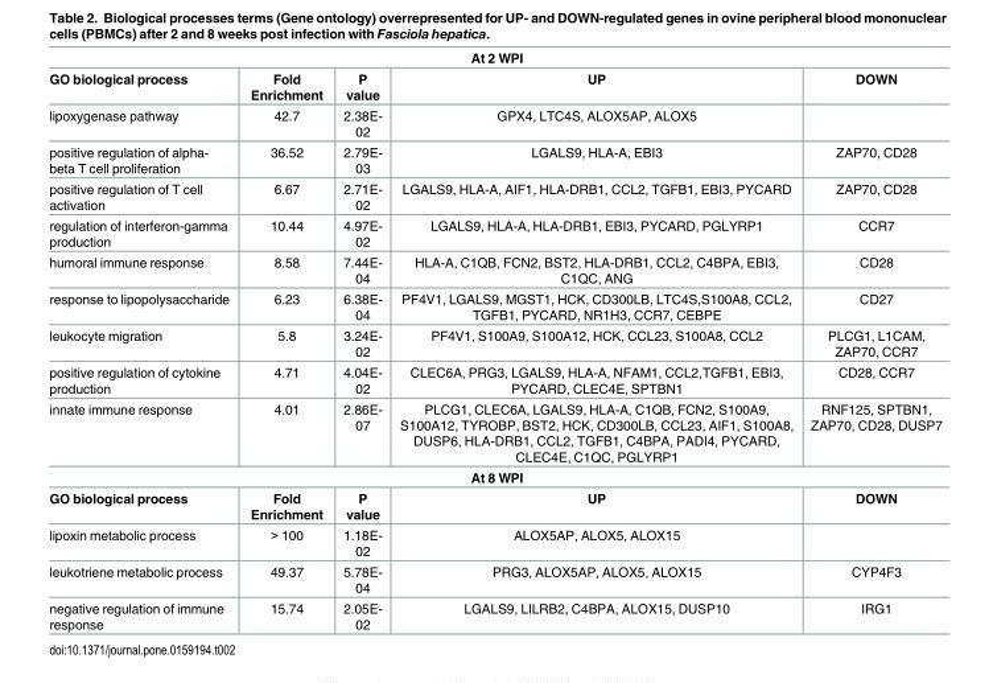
<table><tbody><tr><td colspan="5">At 2 WPI</td></tr><tr><td>GO biological process</td><td>Fold Enrichment</td><td>P value</td><td>UP</td><td>DOWN</td></tr><tr><td>lipoxygenase pathway</td><td>42.7</td><td>2.38E- 02</td><td>GPX4, LTC4S, ALOX5AP, ALOX5</td><td></td></tr><tr><td>positive regulation of alpha- beta T cell proliferation</td><td>36.52</td><td>2.79E- 03</td><td>LGALS9, HLA-A, EBI3</td><td>ZAP70, CD28</td></tr><tr><td>positive regulation of T cell activation</td><td>6.67</td><td>2.71E- 02</td><td>LGALS9, HLA-A, AIF1, HLA-DRB1, CCL2, TGFB1, EBI3, PYCARD</td><td>ZAP70, CD28</td></tr><tr><td>regulation of interferon-gamma production</td><td>10.44</td><td>4.97E- 02</td><td>LGALS9, HLA-A, HLA-DRB1, EBI3, PYCARD, PGLYRP1</td><td>CCR7</td></tr><tr><td>humoral immune response</td><td>8.58</td><td>7.44E- 04</td><td>HLA-A, C1QB, FCN2, BST2, HLA-DRB1, CCL2, C4BPA, EBI3, C1QC, ANG</td><td>CD28</td></tr><tr><td>response to lipopolysaccharide</td><td>6.23</td><td>6.38E- 04</td><td>PF4V1, LGALS9, MGST1, HCK, CD300LB, LTC4S,S100A8, CCL2, TGFB1, PYCARD, NR1H3, CCR7, CEBPE</td><td>CD27</td></tr><tr><td>leukocyte migration</td><td>5.8</td><td>3.24E- 02</td><td>PF4V1, S100A9, S100A12, HCK, CCL23, S100A8, CCL2</td><td>PLCG1, L1CAM, ZAP70, CCR7</td></tr><tr><td>positive regulation of cytokine production</td><td>4.71</td><td>4.04E- 02</td><td>CLEC6A, PRG3, LGALS9, HLA-A, NFAM1, CCL2,TGFB1, EBI3, PYCARD, CLEC4E, SPTBN1</td><td>CD28, CCR7</td></tr><tr><td>innate immune response</td><td>4.01</td><td>2.86E- 07</td><td>PLCG1, CLEC6A, LGALS9, HLA-A, C1QB, FCN2, S100A9, S100A12, TYROBP, BST2, HCK, CD300LB, CCL23, AIF1, S100A8, DUSP6, HLA-DRB1, CCL2, TGFB1, C4BPA, PADI4, PYCARD, CLEC4E, C1QC, PGLYRP1</td><td>RNF125, SPTBN1, ZAP70, CD28, DUSP7</td></tr><tr><td colspan="5">At 8 WPI</td></tr><tr><td>GO biological process</td><td>Fold Enrichment</td><td>P value</td><td>UP</td><td>DOWN</td></tr><tr><td>lipoxin metabolic process</td><td>&gt; 100</td><td>1.18E- 02</td><td>ALOX5AP, ALOX5, ALOX15</td><td></td></tr><tr><td>leukotriene metabolic process</td><td>49.37</td><td>5.78E- 04</td><td>PRG3, ALOX5AP, ALOX5, ALOX15</td><td>CYP4F3</td></tr><tr><td>negative regulation of immune response</td><td>15.74</td><td>2.05E- 02</td><td>LGALS9, LILRB2, C4BPA, ALOX15, DUSP10</td><td>IRG1</td></tr></tbody></table>